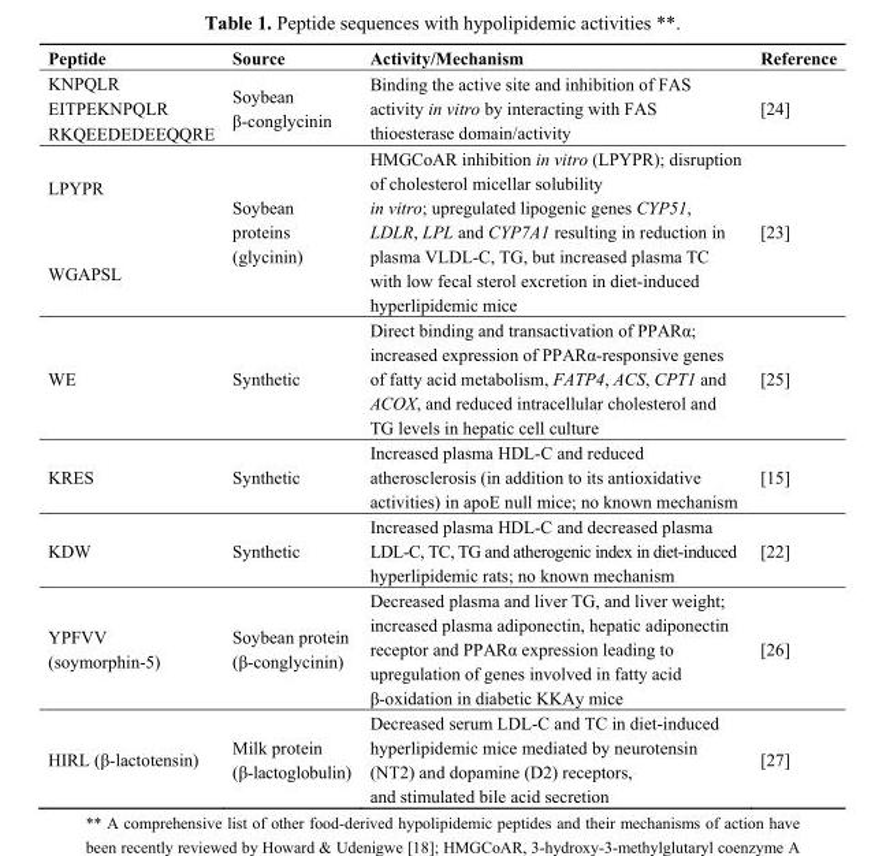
<table><thead><tr><td>Peptide</td><td>Source</td><td>Activity/Mechanism</td><td>Reference</td></tr></thead><tbody><tr><td>KNPQLR</td><td rowspan="3">Soybean β-conglycinin</td><td rowspan="3">Binding the active site and inhibition of FAS activity in vitro by interacting with FAS thioesterase domain/activity</td><td rowspan="3">[24]</td></tr><tr><td>EITPEKNPQLR</td></tr><tr><td>RKQEEDEDEEQQRE</td></tr><tr><td>LPYPR</td><td rowspan="2">Soybean proteins (glycinin)</td><td rowspan="2">HMGCoAR inhibition in vitro (LPYPR); disruption of cholesterol micellar solubility in vitro; upregulated lipogenic genes CYP51, LDLR, LPL and CYP7A1 resulting in reduction in plasma VLDL-C, TG, but increased plasma TC with low fecal sterol excretion in diet-induced hyperlipidemic mice</td><td rowspan="2">[23]</td></tr><tr><td>WGAPSL</td></tr><tr><td>WE</td><td>Synthetic</td><td>Direct binding and transactivation of PPARα; increased expression of PPARα-responsive genes of fatty acid metabolism, FATP4, ACS, CPT1 and ACOX, and reduced intracellular cholesterol and TG levels in hepatic cell culture</td><td>[25]</td></tr><tr><td>KRES</td><td>Synthetic</td><td>Increased plasma HDL-C and reduced atherosclerosis (in addition to its antioxidative activities) in apoE null mice; no known mechanism</td><td>[15]</td></tr><tr><td>KDW</td><td>Synthetic</td><td>Increased plasma HDL-C and decreased plasma LDL-C, TC, TG and atherogenic index in diet-induced hyperlipidemic rats; no known mechanism</td><td>[22]</td></tr><tr><td>YPFVV (soymorphin-5)</td><td>Soybean protein (β-conglycinin)</td><td>Decreased plasma and liver TG, and liver weight; increased plasma adiponectin, hepatic adiponectin receptor and PPARα expression leading to upregulation of genes involved in fatty acid β-oxidation in diabetic KKAy mice</td><td>[26]</td></tr><tr><td>HIRL (β-lactotensin)</td><td>Milk protein (β-lactoglobulin)</td><td>Decreased serum LDL-C and TC in diet-induced hyperlipidemic mice mediated by neurotensin (NT2) and dopamine (D2) receptors, and stimulated bile acid secretion</td><td>[27]</td></tr></tbody></table>